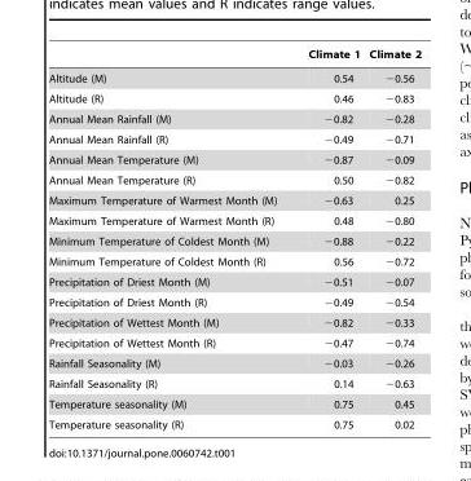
<table><thead><tr><td></td><td>Climate 1</td><td>Climate 2</td></tr></thead><tbody><tr><td>Altitude (M)</td><td>0.54</td><td>−0.56</td></tr><tr><td>Altitude (R)</td><td>0.46</td><td>−0.83</td></tr><tr><td>Annual Mean Rainfall (M)</td><td>−0.82</td><td>−0.28</td></tr><tr><td>Annual Mean Rainfall (R)</td><td>−0.49</td><td>−0.71</td></tr><tr><td>Annual Mean Temperature (M)</td><td>−0.87</td><td>−0.09</td></tr><tr><td>Annual Mean Temperature (R)</td><td>0.50</td><td>−0.82</td></tr><tr><td>Maximum Temperature of Warmest Month (M)</td><td>−0.63</td><td>0.25</td></tr><tr><td>Maximum Temperature of Warmest Month (R)</td><td>0.48</td><td>−0.80</td></tr><tr><td>Minimum Temperature of Coldest Month (M)</td><td>−0.88</td><td>−0.22</td></tr><tr><td>Minimum Temperature of Coldest Month (R)</td><td>0.56</td><td>−0.72</td></tr><tr><td>Precipitation of Driest Month (M)</td><td>−0.51</td><td>−0.07</td></tr><tr><td>Precipitation of Driest Month (R)</td><td>−0.49</td><td>−0.54</td></tr><tr><td>Precipitation of Wettest Month (M)</td><td>−0.82</td><td>−0.33</td></tr><tr><td>Precipitation of Wettest Month (R)</td><td>−0.47</td><td>−0.74</td></tr><tr><td>Rainfall Seasonality (M)</td><td>−0.03</td><td>−0.26</td></tr><tr><td>Rainfall Seasonality (R)</td><td>0.14</td><td>−0.63</td></tr><tr><td>Temperature seasonality (M)</td><td>0.75</td><td>0.45</td></tr><tr><td>Temperature seasonality (R)</td><td>0.75</td><td>0.02</td></tr></tbody></table>